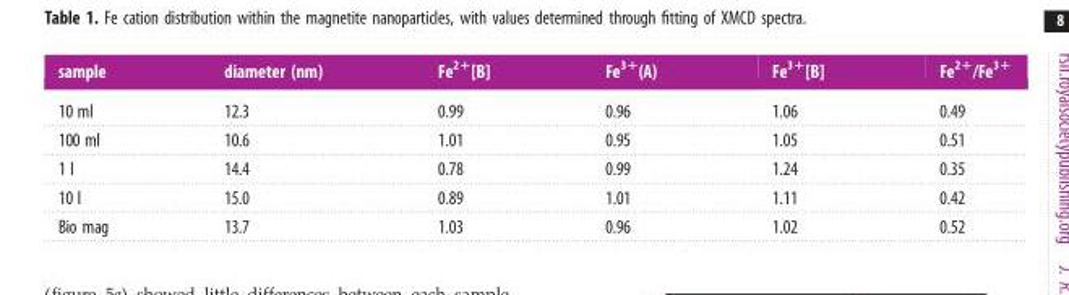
<table><thead><tr><td>sample</td><td>diameter (nm)</td><td>Fe<sup>2+</sup>[B]</td><td>Fe<sup>3+</sup>(A)</td><td>Fe<sup>3+</sup>[B]</td><td>Fe<sup>2+</sup>/Fe<sup>3+</sup></td></tr></thead><tbody><tr><td>10 ml</td><td>12.3</td><td>0.99</td><td>0.96</td><td>1.06</td><td>0.49</td></tr><tr><td>100 ml</td><td>10.6</td><td>1.01</td><td>0.95</td><td>1.05</td><td>0.51</td></tr><tr><td>1 l</td><td>14.4</td><td>0.78</td><td>0.99</td><td>1.24</td><td>0.35</td></tr><tr><td>10 l</td><td>15.0</td><td>0.89</td><td>1.01</td><td>1.11</td><td>0.42</td></tr><tr><td>Bio mag</td><td>13.7</td><td>1.03</td><td>0.96</td><td>1.02</td><td>0.52</td></tr></tbody></table>